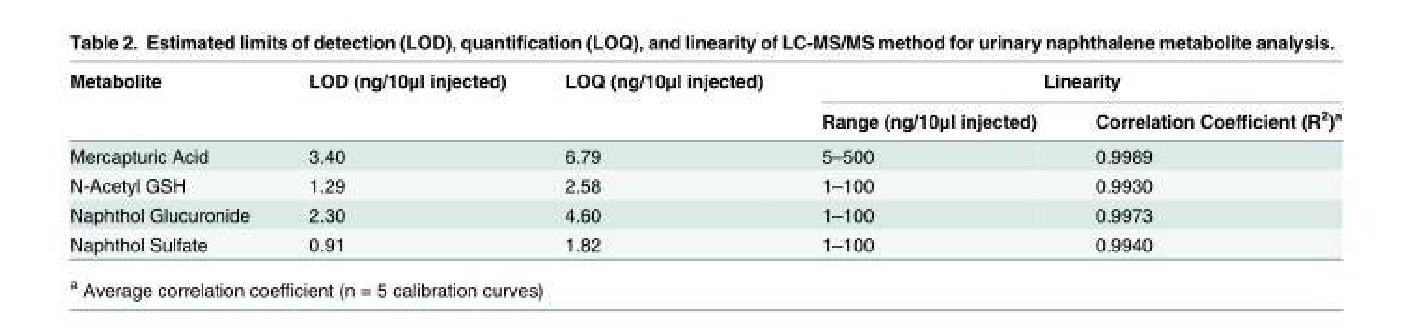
<table><thead><tr><td rowspan="2">Metabolite</td><td rowspan="2">LOD (ng/10μl injected)</td><td rowspan="2">LOQ (ng/10μl injected)</td><td colspan="2">Linearity</td></tr><tr><td>Range (ng/10μl injected)</td><td>Correlation Coefficient (R<sup>2</sup>)<sup>a</sup></td></tr></thead><tbody><tr><td>Mercapturic Acid</td><td>3.40</td><td>6.79</td><td>5–500</td><td>0.9989</td></tr><tr><td>N-Acetyl GSH</td><td>1.29</td><td>2.58</td><td>1–100</td><td>0.9930</td></tr><tr><td>Naphthol Glucuronide</td><td>2.30</td><td>4.60</td><td>1–100</td><td>0.9973</td></tr><tr><td>Naphthol Sulfate</td><td>0.91</td><td>1.82</td><td>1–100</td><td>0.9940</td></tr></tbody></table>